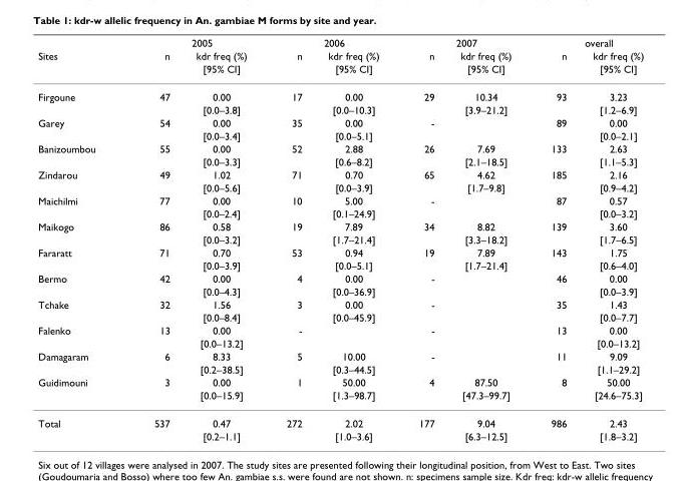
<table><thead><tr><td rowspan="3">Sites</td><td colspan="2">2005</td><td colspan="2">2006</td><td colspan="2">2007</td><td colspan="2">overall</td></tr><tr><td rowspan="2">n</td><td rowspan="2">kdr freq (%) [95% CI]</td><td rowspan="2">n</td><td rowspan="2">kdr freq (%) [95% CI]</td><td rowspan="2">n</td><td rowspan="2">kdr freq (%) [95% CI]</td><td rowspan="2">n</td><td rowspan="2">kdr freq (%) [95% CI]</td></tr><tr></tr></thead><tbody><tr><td rowspan="2">Firgoune</td><td>47</td><td>0.00</td><td>17</td><td>0.00</td><td>29</td><td>10.34</td><td>93</td><td>3.23</td></tr><tr><td></td><td>[0.0–3.8]</td><td></td><td>[0.0–10.3]</td><td></td><td>[3.9–21.2]</td><td></td><td>[1.2–6.9]</td></tr><tr><td rowspan="2">Garey</td><td>54</td><td>0.00</td><td>35</td><td>0.00</td><td>-</td><td></td><td>89</td><td>0.00</td></tr><tr><td></td><td>[0.0–3.4]</td><td></td><td>[0.0–5.1]</td><td></td><td></td><td></td><td>[0.0–2.1]</td></tr><tr><td rowspan="2">Banizoumbou</td><td>55</td><td>0.00</td><td>52</td><td>2.88</td><td>26</td><td>7.69</td><td>133</td><td>2.63</td></tr><tr><td></td><td>[0.0–3.3]</td><td></td><td>[0.6–8.2]</td><td></td><td>[2.1–18.5]</td><td></td><td>[1.1–5.3]</td></tr><tr><td rowspan="2">Zindarou</td><td>49</td><td>1.02</td><td>71</td><td>0.70</td><td>65</td><td>4.62</td><td>185</td><td>2.16</td></tr><tr><td></td><td>[0.0–5.6]</td><td></td><td>[0.0–3.9]</td><td></td><td>[1.7–9.8]</td><td></td><td>[0.9–4.2]</td></tr><tr><td rowspan="2">Maichilmi</td><td>77</td><td>0.00</td><td>10</td><td>5.00</td><td>-</td><td></td><td>87</td><td>0.57</td></tr><tr><td></td><td>[0.0–2.4]</td><td></td><td>[0.1–24.9]</td><td></td><td></td><td></td><td>[0.0–3.2]</td></tr><tr><td rowspan="2">Maikogo</td><td>86</td><td>0.58</td><td>19</td><td>7.89</td><td>34</td><td>8.82</td><td>139</td><td>3.60</td></tr><tr><td></td><td>[0.0–3.2]</td><td></td><td>[1.7–21.4]</td><td></td><td>[3.3–18.2]</td><td></td><td>[1.7–6.5]</td></tr><tr><td rowspan="2">Fararatt</td><td>71</td><td>0.70</td><td>53</td><td>0.94</td><td>19</td><td>7.89</td><td>143</td><td>1.75</td></tr><tr><td></td><td>[0.0–3.9]</td><td></td><td>[0.0–5.1]</td><td></td><td>[1.7–21.4]</td><td></td><td>[0.6–4.0]</td></tr><tr><td rowspan="2">Bermo</td><td>42</td><td>0.00</td><td>4</td><td>0.00</td><td>-</td><td></td><td>46</td><td>0.00</td></tr><tr><td></td><td>[0.0–4.3]</td><td></td><td>[0.0–36.9]</td><td></td><td></td><td></td><td>[0.0–3.9]</td></tr><tr><td rowspan="2">Tchake</td><td>32</td><td>1.56</td><td>3</td><td>0.00</td><td>-</td><td></td><td>35</td><td>1.43</td></tr><tr><td></td><td>[0.0–8.4]</td><td></td><td>[0.0–45.9]</td><td></td><td></td><td></td><td>[0.0–7.7]</td></tr><tr><td rowspan="2">Falenko</td><td>13</td><td>0.00</td><td>-</td><td></td><td>-</td><td></td><td>13</td><td>0.00</td></tr><tr><td></td><td>[0.0–13.2]</td><td></td><td></td><td></td><td></td><td></td><td>[0.0–13.2]</td></tr><tr><td rowspan="2">Damagaram</td><td>6</td><td>8.33</td><td>5</td><td>10.00</td><td>-</td><td></td><td>11</td><td>9.09</td></tr><tr><td></td><td>[0.2–38.5]</td><td></td><td>[0.3–44.5]</td><td></td><td></td><td></td><td>[1.1–29.2]</td></tr><tr><td rowspan="2">Guidimouni</td><td>3</td><td>0.00</td><td>1</td><td>50.00</td><td>4</td><td>87.50</td><td>8</td><td>50.00</td></tr><tr><td></td><td>[0.0–15.9]</td><td></td><td>[1.3–98.7]</td><td></td><td>[47.3–99.7]</td><td></td><td>[24.6–75.3]</td></tr><tr><td rowspan="2">Total</td><td>537</td><td>0.47</td><td>272</td><td>2.02</td><td>177</td><td>9.04</td><td>986</td><td>2.43</td></tr><tr><td></td><td>[0.2–1.1]</td><td></td><td>[1.0–3.6]</td><td></td><td>[6.3–12.5]</td><td></td><td>[1.8–3.2]</td></tr></tbody></table>